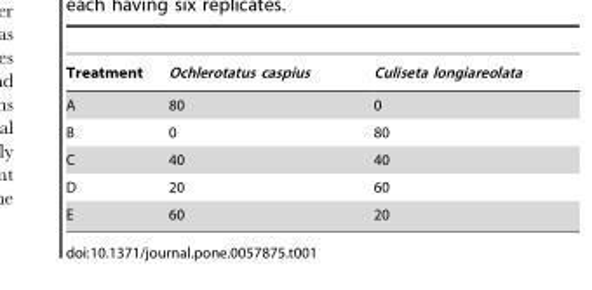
<table><thead><tr><td>Treatment</td><td>Ochlerotatus caspius</td><td>Culiseta longiareolata</td></tr></thead><tbody><tr><td>A</td><td>80</td><td>0</td></tr><tr><td>B</td><td>0</td><td>80</td></tr><tr><td>C</td><td>40</td><td>40</td></tr><tr><td>D</td><td>20</td><td>60</td></tr><tr><td>E</td><td>60</td><td>20</td></tr></tbody></table>